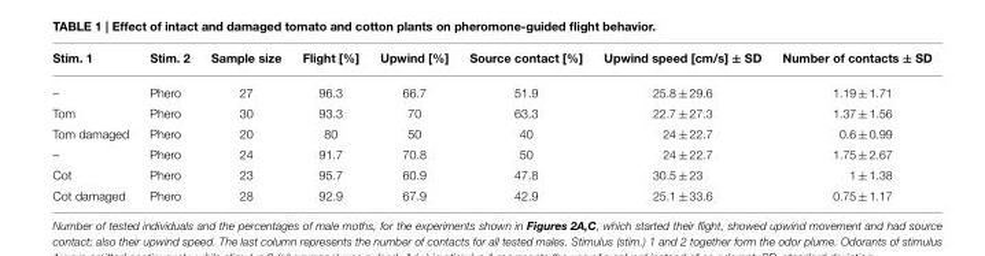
<table><thead><tr><td>Stim. 1</td><td>Stim. 2</td><td>Sample size</td><td>Flight [%]</td><td>Upwind [%]</td><td>Source contact [%]</td><td>Upwind speed [cm/s] ± SD</td><td>Number of contacts ± SD</td></tr></thead><tbody><tr><td>–</td><td>Phero</td><td>27</td><td>96.3</td><td>66.7</td><td>51.9</td><td>25.8 ± 29.6</td><td>1.19 ± 1.71</td></tr><tr><td>Tom</td><td>Phero</td><td>30</td><td>93.3</td><td>70</td><td>63.3</td><td>22.7 ± 27.3</td><td>1.37 ± 1.56</td></tr><tr><td>Tom damaged</td><td>Phero</td><td>20</td><td>80</td><td>50</td><td>40</td><td>24 ± 22.7</td><td>0.6 ± 0.99</td></tr><tr><td>–</td><td>Phero</td><td>24</td><td>91.7</td><td>70.8</td><td>50</td><td>24 ± 22.7</td><td>1.75 ± 2.67</td></tr><tr><td>Cot</td><td>Phero</td><td>23</td><td>95.7</td><td>60.9</td><td>47.8</td><td>30.5 ± 23</td><td>1 ± 1.38</td></tr><tr><td>Cot damaged</td><td>Phero</td><td>28</td><td>92.9</td><td>67.9</td><td>42.9</td><td>25.1 ± 33.6</td><td>0.75 ± 1.17</td></tr></tbody></table>